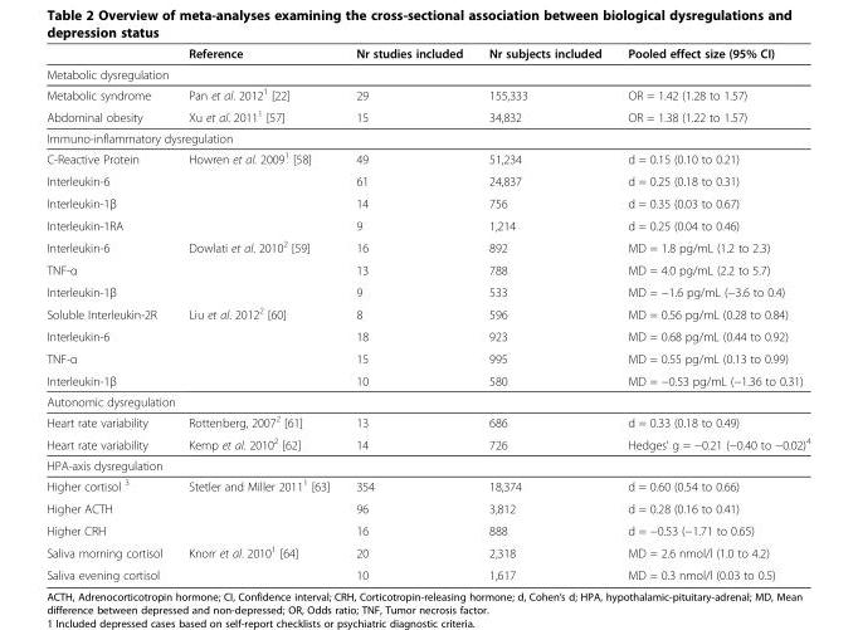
<table><thead><tr><td></td><td>Reference</td><td>Nr studies included</td><td>Nr subjects included</td><td>Pooled effect size (95% CI)</td></tr></thead><tbody><tr><td colspan="5">Metabolic dysregulation</td></tr><tr><td>Metabolic syndrome</td><td>Pan et al. 2012<sup>1</sup> [22]</td><td>29</td><td>155,333</td><td>OR = 1.42 (1.28 to 1.57)</td></tr><tr><td>Abdominal obesity</td><td>Xu et al. 2011<sup>1</sup> [57]</td><td>15</td><td>34,832</td><td>OR = 1.38 (1.22 to 1.57)</td></tr><tr><td colspan="5">Immuno-inflammatory dysregulation</td></tr><tr><td>C-Reactive Protein</td><td>Howren et al. 2009<sup>1</sup> [58]</td><td>49</td><td>51,234</td><td>d = 0.15 (0.10 to 0.21)</td></tr><tr><td>Interleukin-6</td><td></td><td>61</td><td>24,837</td><td>d = 0.25 (0.18 to 0.31)</td></tr><tr><td>Interleukin-1β</td><td></td><td>14</td><td>756</td><td>d = 0.35 (0.03 to 0.67)</td></tr><tr><td>Interleukin-1RA</td><td></td><td>9</td><td>1,214</td><td>d = 0.25 (0.04 to 0.46)</td></tr><tr><td>Interleukin-6</td><td>Dowlati et al. 2010<sup>2</sup> [59]</td><td>16</td><td>892</td><td>MD = 1.8 pg/mL (1.2 to 2.3)</td></tr><tr><td>TNF-α</td><td></td><td>13</td><td>788</td><td>MD = 4.0 pg/mL (2.2 to 5.7)</td></tr><tr><td>Interleukin-1β</td><td></td><td>9</td><td>533</td><td>MD = −1.6 pg/mL (−3.6 to 0.4)</td></tr><tr><td>Soluble Interleukin-2R</td><td>Liu et al. 2012<sup>2</sup> [60]</td><td>8</td><td>596</td><td>MD = 0.56 pg/mL (0.28 to 0.84)</td></tr><tr><td>Interleukin-6</td><td></td><td>18</td><td>923</td><td>MD = 0.68 pg/mL (0.44 to 0.92)</td></tr><tr><td>TNF-α</td><td></td><td>15</td><td>995</td><td>MD = 0.55 pg/mL (0.13 to 0.99)</td></tr><tr><td>Interleukin-1β</td><td></td><td>10</td><td>580</td><td>MD = −0.53 pg/mL (−1.36 to 0.31)</td></tr><tr><td colspan="5">Autonomic dysregulation</td></tr><tr><td>Heart rate variability</td><td>Rottenberg, 2007<sup>2</sup> [61]</td><td>13</td><td>686</td><td>d = 0.33 (0.18 to 0.49)</td></tr><tr><td>Heart rate variability</td><td>Kemp et al. 2010<sup>2</sup> [62]</td><td>14</td><td>726</td><td>Hedges’ g = −0.21 (−0.40 to −0.02)<sup>4</sup></td></tr><tr><td colspan="5">HPA-axis dysregulation</td></tr><tr><td>Higher cortisol <sup>3</sup></td><td>Stetler and Miller 2011<sup>1</sup> [63]</td><td>354</td><td>18,374</td><td>d = 0.60 (0.54 to 0.66)</td></tr><tr><td>Higher ACTH</td><td></td><td>96</td><td>3,812</td><td>d = 0.28 (0.16 to 0.41)</td></tr><tr><td>Higher CRH</td><td></td><td>16</td><td>888</td><td>d = −0.53 (−1.71 to 0.65)</td></tr><tr><td>Saliva morning cortisol</td><td>Knorr et al. 2010<sup>1</sup> [64]</td><td>20</td><td>2,318</td><td>MD = 2.6 nmol/l (1.0 to 4.2)</td></tr><tr><td>Saliva evening cortisol</td><td></td><td>10</td><td>1,617</td><td>MD = 0.3 nmol/l (0.03 to 0.5)</td></tr></tbody></table>